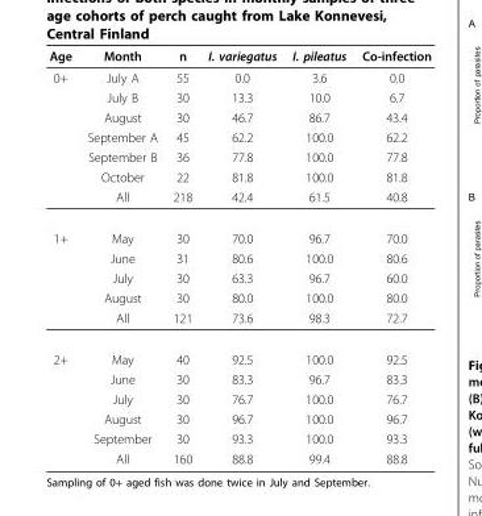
<table><thead><tr><td>Age</td><td>Month</td><td>n</td><td>I. variegatus</td><td>I. pileatus</td><td>Co-infection</td></tr></thead><tbody><tr><td rowspan="7">0+</td><td>July A</td><td>55</td><td>0.0</td><td>3.6</td><td>0.0</td></tr><tr><td>July B</td><td>30</td><td>13.3</td><td>10.0</td><td>6.7</td></tr><tr><td>August</td><td>30</td><td>46.7</td><td>86.7</td><td>43.4</td></tr><tr><td>September A</td><td>45</td><td>62.2</td><td>100.0</td><td>62.2</td></tr><tr><td>September B</td><td>36</td><td>77.8</td><td>100.0</td><td>77.8</td></tr><tr><td>October</td><td>22</td><td>81.8</td><td>100.0</td><td>81.8</td></tr><tr><td>All</td><td>218</td><td>42.4</td><td>61.5</td><td>40.8</td></tr><tr><td rowspan="5">1+</td><td>May</td><td>30</td><td>70.0</td><td>96.7</td><td>70.0</td></tr><tr><td>June</td><td>31</td><td>80.6</td><td>100.0</td><td>80.6</td></tr><tr><td>July</td><td>30</td><td>63.3</td><td>96.7</td><td>60.0</td></tr><tr><td>August</td><td>30</td><td>80.0</td><td>100.0</td><td>80.0</td></tr><tr><td>All</td><td>121</td><td>73.6</td><td>98.3</td><td>72.7</td></tr><tr><td rowspan="6">2+</td><td>May</td><td>40</td><td>92.5</td><td>100.0</td><td>92.5</td></tr><tr><td>June</td><td>30</td><td>83.3</td><td>96.7</td><td>83.3</td></tr><tr><td>July</td><td>30</td><td>76.7</td><td>100.0</td><td>76.7</td></tr><tr><td>August</td><td>30</td><td>96.7</td><td>100.0</td><td>96.7</td></tr><tr><td>September</td><td>30</td><td>93.3</td><td>100.0</td><td>93.3</td></tr><tr><td>All</td><td>160</td><td>88.8</td><td>99.4</td><td>88.8</td></tr></tbody></table>